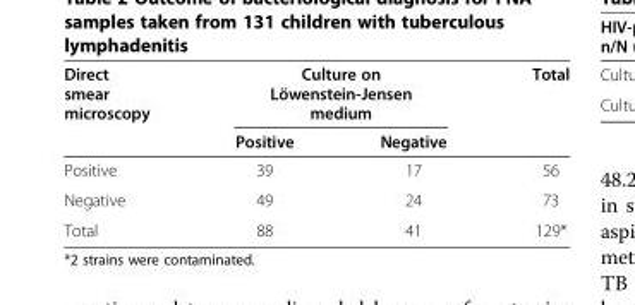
<table><thead><tr><td rowspan="2">Direct smear microscopy</td><td colspan="2">Culture on Löwenstein-Jensen medium</td><td rowspan="2">Total</td></tr><tr><td>Positive</td><td>Negative</td></tr></thead><tbody><tr><td>Positive</td><td>39</td><td>17</td><td>56</td></tr><tr><td>Negative</td><td>49</td><td>24</td><td>73</td></tr><tr><td>Total</td><td>88</td><td>41</td><td>129*</td></tr></tbody></table>